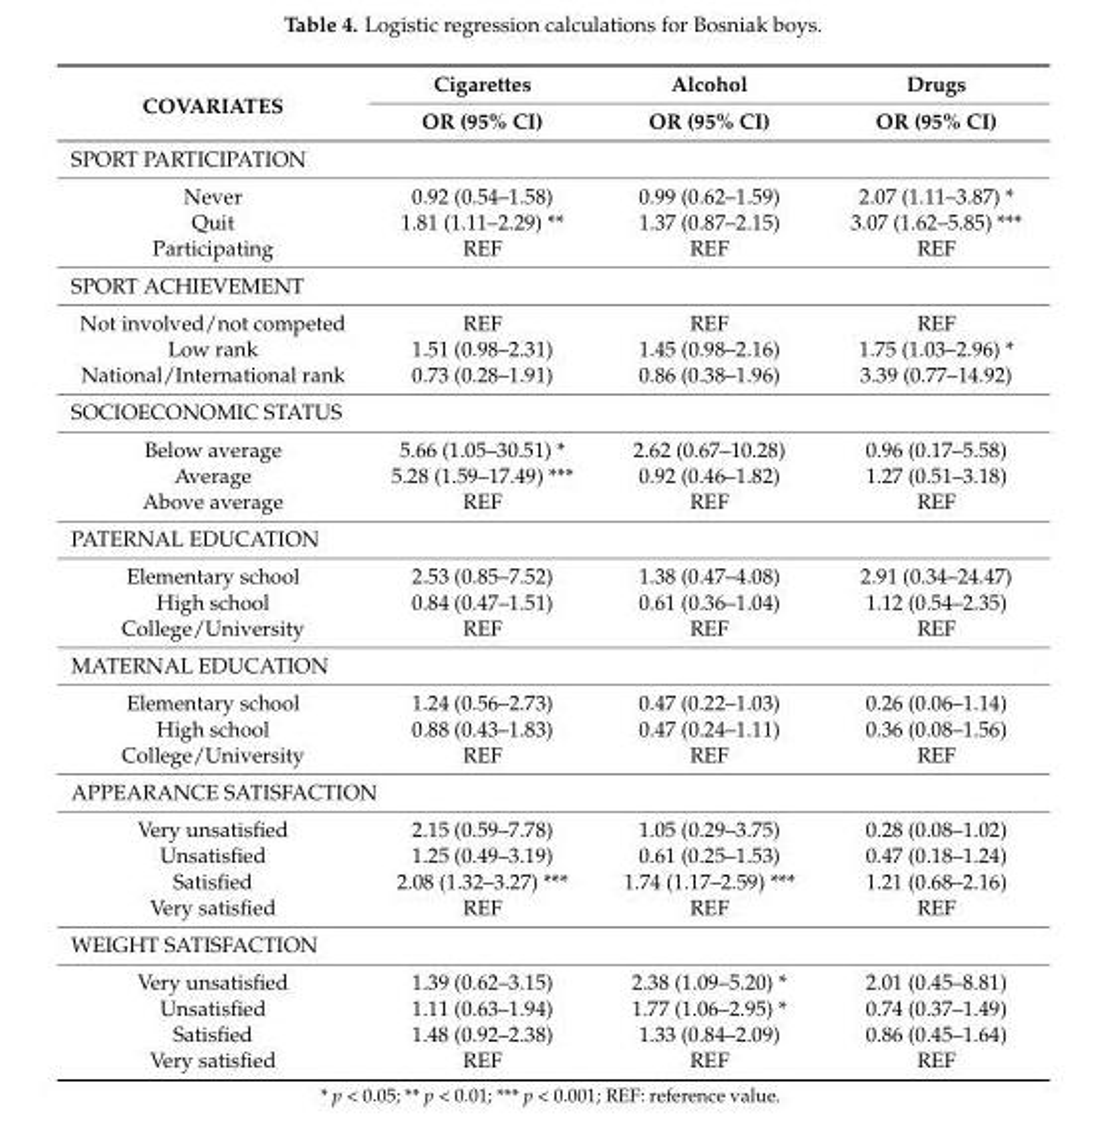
<table><thead><tr><td rowspan="2">COVARIATES</td><td rowspan="2">Cigarettes OR (95% CI)</td><td rowspan="2">Alcohol OR (95% CI)</td><td rowspan="2">Drugs OR (95% CI)</td></tr><tr></tr></thead><tbody><tr><td colspan="4">SPORT PARTICIPATION</td></tr><tr><td>Never</td><td>0.92 (0.54–1.58)</td><td>0.99 (0.62–1.59)</td><td>2.07 (1.11–3.87) *</td></tr><tr><td>Quit</td><td>1.81 (1.11–2.29) **</td><td>1.37 (0.87–2.15)</td><td>3.07 (1.62–5.85) ***</td></tr><tr><td>Participating</td><td>REF</td><td>REF</td><td>REF</td></tr><tr><td colspan="4">SPORT ACHIEVEMENT</td></tr><tr><td>Not involved/not competed</td><td>REF</td><td>REF</td><td>REF</td></tr><tr><td>Low rank</td><td>1.51 (0.98–2.31)</td><td>1.45 (0.98–2.16)</td><td>1.75 (1.03–2.96) *</td></tr><tr><td>National/International rank</td><td>0.73 (0.28–1.91)</td><td>0.86 (0.38–1.96)</td><td>3.39 (0.77–14.92)</td></tr><tr><td colspan="4">SOCIOECONOMIC STATUS</td></tr><tr><td>Below average</td><td>5.66 (1.05–30.51) *</td><td>2.62 (0.67–10.28)</td><td>0.96 (0.17–5.58)</td></tr><tr><td>Average</td><td>5.28 (1.59–17.49) ***</td><td>0.92 (0.46–1.82)</td><td>1.27 (0.51–3.18)</td></tr><tr><td>Above average</td><td>REF</td><td>REF</td><td>REF</td></tr><tr><td colspan="4">PATERNAL EDUCATION</td></tr><tr><td>Elementary school</td><td>2.53 (0.85–7.52)</td><td>1.38 (0.47–4.08)</td><td>2.91 (0.34–24.47)</td></tr><tr><td>High school</td><td>0.84 (0.47–1.51)</td><td>0.61 (0.36–1.04)</td><td>1.12 (0.54–2.35)</td></tr><tr><td>College/University</td><td>REF</td><td>REF</td><td>REF</td></tr><tr><td colspan="4">MATERNAL EDUCATION</td></tr><tr><td>Elementary school</td><td>1.24 (0.56–2.73)</td><td>0.47 (0.22–1.03)</td><td>0.26 (0.06–1.14)</td></tr><tr><td>High school</td><td>0.88 (0.43–1.83)</td><td>0.47 (0.24–1.11)</td><td>0.36 (0.08–1.56)</td></tr><tr><td>College/University</td><td>REF</td><td>REF</td><td>REF</td></tr><tr><td colspan="4">APPEARANCE SATISFACTION</td></tr><tr><td>Very unsatisfied</td><td>2.15 (0.59–7.78)</td><td>1.05 (0.29–3.75)</td><td>0.28 (0.08–1.02)</td></tr><tr><td>Unsatisfied</td><td>1.25 (0.49–3.19)</td><td>0.61 (0.25–1.53)</td><td>0.47 (0.18–1.24)</td></tr><tr><td>Satisfied</td><td>2.08 (1.32–3.27) ***</td><td>1.74 (1.17–2.59) ***</td><td>1.21 (0.68–2.16)</td></tr><tr><td>Very satisfied</td><td>REF</td><td>REF</td><td>REF</td></tr><tr><td colspan="4">WEIGHT SATISFACTION</td></tr><tr><td>Very unsatisfied</td><td>1.39 (0.62–3.15)</td><td>2.38 (1.09–5.20) *</td><td>2.01 (0.45–8.81)</td></tr><tr><td>Unsatisfied</td><td>1.11 (0.63–1.94)</td><td>1.77 (1.06–2.95) *</td><td>0.74 (0.37–1.49)</td></tr><tr><td>Satisfied</td><td>1.48 (0.92–2.38)</td><td>1.33 (0.84–2.09)</td><td>0.86 (0.45–1.64)</td></tr><tr><td>Very satisfied</td><td>REF</td><td>REF</td><td>REF</td></tr></tbody></table>